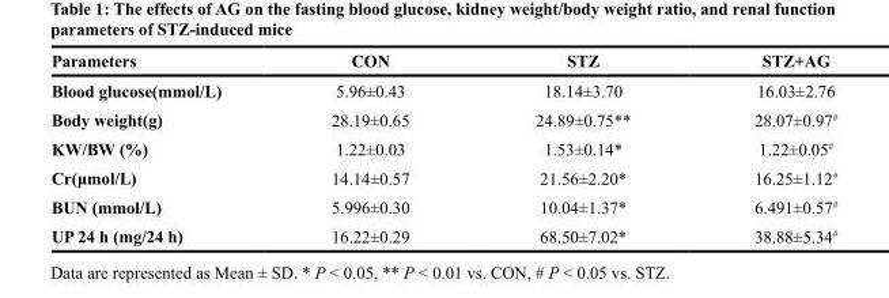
<table><thead><tr><td>Parameters</td><td>CON</td><td>STZ</td><td>STZ+AG</td></tr></thead><tbody><tr><td>Blood glucose(mmol/L)</td><td>5.96±0.43</td><td>18.14±3.70</td><td>16.03±2.76</td></tr><tr><td>Body weight(g)</td><td>28.19±0.65</td><td>24.89±0.75**</td><td>28.07±0.97<sup>#</sup></td></tr><tr><td>KW/BW (%)</td><td>1.22±0.03</td><td>1.53±0.14*</td><td>1.22±0.05<sup>#</sup></td></tr><tr><td>Cr(μmol/L)</td><td>14.14±0.57</td><td>21.56±2.20*</td><td>16.25±1.12<sup>#</sup></td></tr><tr><td>BUN (mmol/L)</td><td>5.996±0.30</td><td>10.04±1.37*</td><td>6.491±0.57<sup>#</sup></td></tr><tr><td>UP 24 h (mg/24 h)</td><td>16.22±0.29</td><td>68.50±7.02*</td><td>38.88±5.34<sup>#</sup></td></tr></tbody></table>